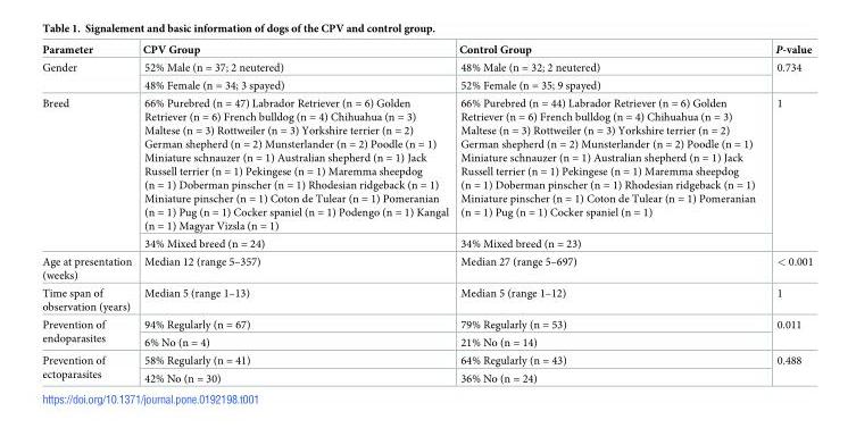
<table><thead><tr><td>Parameter</td><td>CPV Group</td><td>Control Group</td><td>P-value</td></tr></thead><tbody><tr><td rowspan="2">Gender</td><td>52% Male (n = 37; 2 neutered)</td><td>48% Male (n = 32; 2 neutered)</td><td rowspan="2">0.734</td></tr><tr><td>48% Female (n = 34; 3 spayed)</td><td>52% Female (n = 35; 9 spayed)</td></tr><tr><td rowspan="2">Breed</td><td>66% Purebred (n = 47) Labrador Retriever (n = 6) Golden Retriever (n = 6) French bulldog (n = 4) Chihuahua (n = 3) Maltese (n = 3) Rottweiler (n = 3) Yorkshire terrier (n = 2) German shepherd (n = 2) Munsterlander (n = 2) Poodle (n = 1) Miniature schnauzer (n = 1) Australian shepherd (n = 1) Jack Russell terrier (n = 1) Pekingese (n = 1) Maremma sheepdog (n = 1) Doberman pinscher (n = 1) Rhodesian ridgeback (n = 1) Miniature pinscher (n = 1) Coton de Tulear (n = 1) Pomeranian (n = 1) Pug (n = 1) Cocker spaniel (n = 1) Podengo (n = 1) Kangal (n = 1) Magyar Vizsla (n = 1)</td><td>66% Purebred (n = 44) Labrador Retriever (n = 6) Golden Retriever (n = 6) French bulldog (n = 4) Chihuahua (n = 3) Maltese (n = 3) Rottweiler (n = 3) Yorkshire terrier (n = 2) German shepherd (n = 2) Munsterlander (n = 2) Poodle (n = 1) Miniature schnauzer (n = 1) Australian shepherd (n = 1) Jack Russell terrier (n = 1) Pekingese (n = 1) Maremma sheepdog (n = 1) Doberman pinscher (n = 1) Rhodesian ridgeback (n = 1) Miniature pinscher (n = 1) Coton de Tulear (n = 1) Pomeranian (n = 1) Pug (n = 1) Cocker spaniel (n = 1)</td><td rowspan="2">1</td></tr><tr><td>34% Mixed breed (n = 24)</td><td>34% Mixed breed (n = 23)</td></tr><tr><td>Age at presentation (weeks)</td><td>Median 12 (range 5–357)</td><td>Median 27 (range 5–697)</td><td>&lt; 0.001</td></tr><tr><td>Time span of observation (years)</td><td>Median 5 (range 1–13)</td><td>Median 5 (range 1–12)</td><td>1</td></tr><tr><td rowspan="2">Prevention of endoparasites</td><td>94% Regularly (n = 67)</td><td>79% Regularly (n = 53)</td><td rowspan="2">0.011</td></tr><tr><td>6% No (n = 4)</td><td>21% No (n = 14)</td></tr><tr><td rowspan="2">Prevention of ectoparasites</td><td>58% Regularly (n = 41)</td><td>64% Regularly (n = 43)</td><td rowspan="2">0.488</td></tr><tr><td>42% No (n = 30)</td><td>36% No (n = 24)</td></tr></tbody></table>